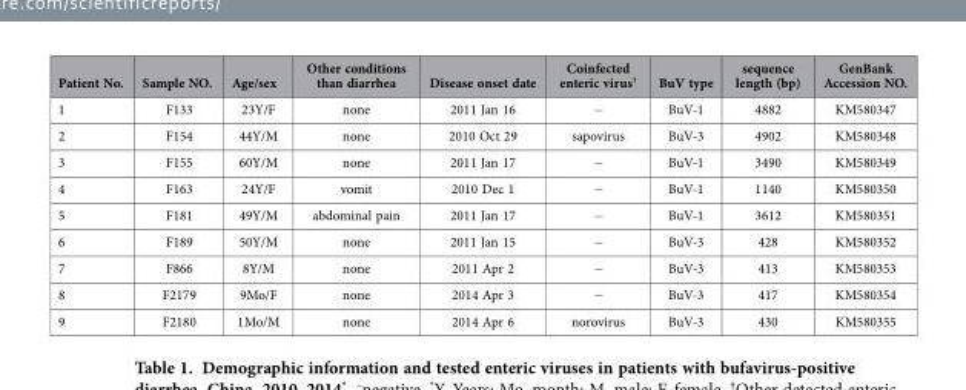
<table><thead><tr><td>Patient No.</td><td>Sample NO.</td><td>Age/sex</td><td>Other conditions than diarrhea</td><td>Disease onset date</td><td>Coinfected enteric virus†</td><td>BuV type</td><td>sequence length (bp)</td><td>GenBank Accession NO.</td></tr></thead><tbody><tr><td>1</td><td>F133</td><td>23Y/F</td><td>none</td><td>2011 Jan 16</td><td>−</td><td>BuV-1</td><td>4882</td><td>KM580347</td></tr><tr><td>2</td><td>F154</td><td>44Y/M</td><td>none</td><td>2010 Oct 29</td><td>sapovirus</td><td>BuV-3</td><td>4902</td><td>KM580348</td></tr><tr><td>3</td><td>F155</td><td>60Y/M</td><td>none</td><td>2011 Jan 17</td><td>−</td><td>BuV-1</td><td>3490</td><td>KM580349</td></tr><tr><td>4</td><td>F163</td><td>24Y/F</td><td>vomit</td><td>2010 Dec 1</td><td>−</td><td>BuV-1</td><td>1140</td><td>KM580350</td></tr><tr><td>5</td><td>F181</td><td>49Y/M</td><td>abdominal pain</td><td>2011 Jan 17</td><td>−</td><td>BuV-1</td><td>3612</td><td>KM580351</td></tr><tr><td>6</td><td>F189</td><td>50Y/M</td><td>none</td><td>2011 Jan 15</td><td>−</td><td>BuV-3</td><td>428</td><td>KM580352</td></tr><tr><td>7</td><td>F866</td><td>8Y/M</td><td>none</td><td>2011 Apr 2</td><td>−</td><td>BuV-3</td><td>413</td><td>KM580353</td></tr><tr><td>8</td><td>F2179</td><td>9Mo/F</td><td>none</td><td>2014 Apr 3</td><td>−</td><td>BuV-3</td><td>417</td><td>KM580354</td></tr><tr><td>9</td><td>F2180</td><td>1Mo/M</td><td>none</td><td>2014 Apr 6</td><td>norovirus</td><td>BuV-3</td><td>430</td><td>KM580355</td></tr></tbody></table>